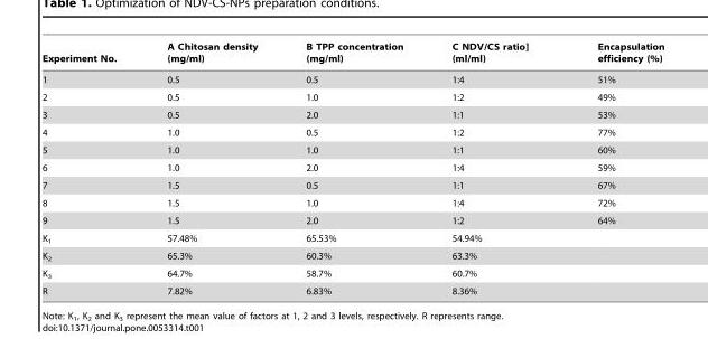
<table><thead><tr><td>Experiment No.</td><td>A Chitosan density (mg/ml)</td><td>B TPP concentration (mg/ml)</td><td>C NDV/CS ratio] (ml/ml)</td><td>Encapsulation efficiency (%)</td></tr></thead><tbody><tr><td>1</td><td>0.5</td><td>0.5</td><td>1:4</td><td>51%</td></tr><tr><td>2</td><td>0.5</td><td>1.0</td><td>1:2</td><td>49%</td></tr><tr><td>3</td><td>0.5</td><td>2.0</td><td>1:1</td><td>53%</td></tr><tr><td>4</td><td>1.0</td><td>0.5</td><td>1:2</td><td>77%</td></tr><tr><td>5</td><td>1.0</td><td>1.0</td><td>1:1</td><td>60%</td></tr><tr><td>6</td><td>1.0</td><td>2.0</td><td>1:4</td><td>59%</td></tr><tr><td>7</td><td>1.5</td><td>0.5</td><td>1:1</td><td>67%</td></tr><tr><td>8</td><td>1.5</td><td>1.0</td><td>1:4</td><td>72%</td></tr><tr><td>9</td><td>1.5</td><td>2.0</td><td>1:2</td><td>64%</td></tr><tr><td>K<sub>1</sub></td><td>57.48%</td><td>65.53%</td><td>54.94%</td><td></td></tr><tr><td>K<sub>2</sub></td><td>65.3%</td><td>60.3%</td><td>63.3%</td><td></td></tr><tr><td>K<sub>3</sub></td><td>64.7%</td><td>58.7%</td><td>60.7%</td><td></td></tr><tr><td>R</td><td>7.82%</td><td>6.83%</td><td>8.36%</td><td></td></tr></tbody></table>